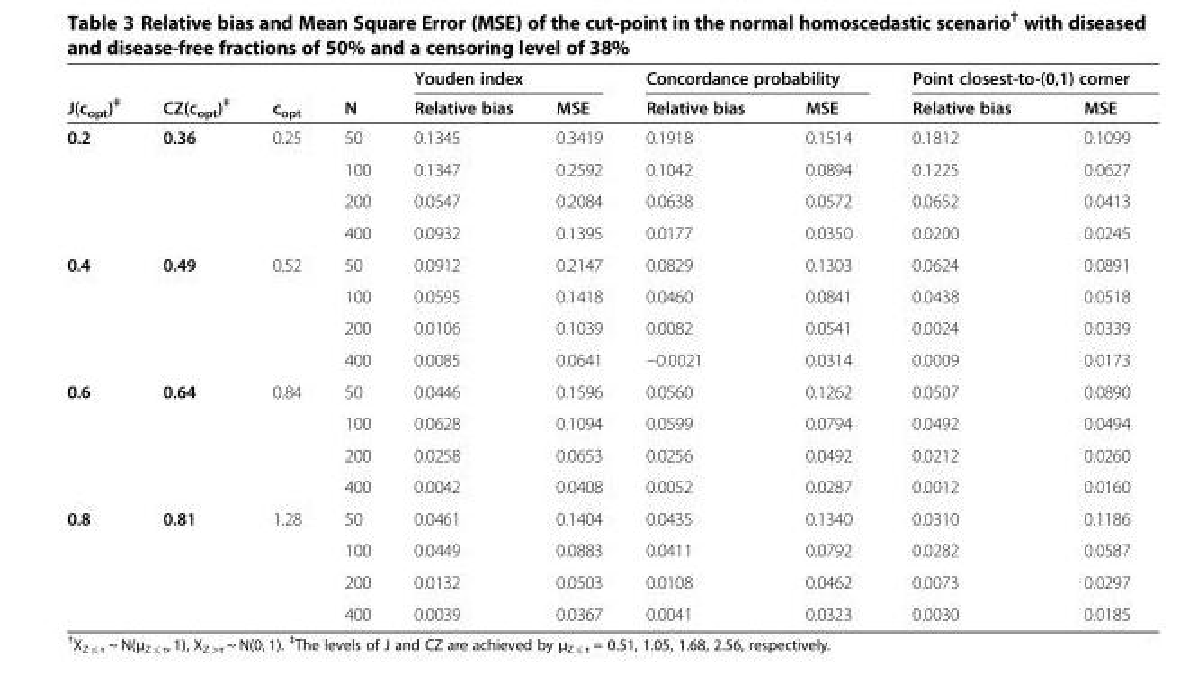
<table><thead><tr><td rowspan="2">J(c<sub>opt</sub>)<sup>‡</sup></td><td rowspan="2">CZ(c<sub>opt</sub>)<sup>‡</sup></td><td rowspan="2">c<sub>opt</sub></td><td rowspan="2">N</td><td colspan="2">Youden index</td><td colspan="2">Concordance probability</td><td colspan="2">Point closest-to-(0,1) corner</td></tr><tr><td>Relative bias</td><td>MSE</td><td>Relative bias</td><td>MSE</td><td>Relative bias</td><td>MSE</td></tr></thead><tbody><tr><td rowspan="4">0.2</td><td>0.36</td><td>0.25</td><td>50</td><td>0.1345</td><td>0.3419</td><td>0.1918</td><td>0.1514</td><td>0.1812</td><td>0.1099</td></tr><tr><td></td><td></td><td>100</td><td>0.1347</td><td>0.2592</td><td>0.1042</td><td>0.0894</td><td>0.1225</td><td>0.0627</td></tr><tr><td></td><td></td><td>200</td><td>0.0547</td><td>0.2084</td><td>0.0638</td><td>0.0572</td><td>0.0652</td><td>0.0413</td></tr><tr><td></td><td></td><td>400</td><td>0.0932</td><td>0.1395</td><td>0.0177</td><td>0.0350</td><td>0.0200</td><td>0.0245</td></tr><tr><td rowspan="4">0.4</td><td>0.49</td><td>0.52</td><td>50</td><td>0.0912</td><td>0.2147</td><td>0.0829</td><td>0.1303</td><td>0.0624</td><td>0.0891</td></tr><tr><td></td><td></td><td>100</td><td>0.0595</td><td>0.1418</td><td>0.0460</td><td>0.0841</td><td>0.0438</td><td>0.0518</td></tr><tr><td></td><td></td><td>200</td><td>0.0106</td><td>0.1039</td><td>0.0082</td><td>0.0541</td><td>0.0024</td><td>0.0339</td></tr><tr><td></td><td></td><td>400</td><td>0.0085</td><td>0.0641</td><td>−0.0021</td><td>0.0314</td><td>0.0009</td><td>0.0173</td></tr><tr><td rowspan="4">0.6</td><td>0.64</td><td>0.84</td><td>50</td><td>0.0446</td><td>0.1596</td><td>0.0560</td><td>0.1262</td><td>0.0507</td><td>0.0890</td></tr><tr><td></td><td></td><td>100</td><td>0.0628</td><td>0.1094</td><td>0.0599</td><td>0.0794</td><td>0.0492</td><td>0.0494</td></tr><tr><td></td><td></td><td>200</td><td>0.0258</td><td>0.0653</td><td>0.0256</td><td>0.0492</td><td>0.0212</td><td>0.0260</td></tr><tr><td></td><td></td><td>400</td><td>0.0042</td><td>0.0408</td><td>0.0052</td><td>0.0287</td><td>0.0012</td><td>0.0160</td></tr><tr><td rowspan="4">0.8</td><td>0.81</td><td>1.28</td><td>50</td><td>0.0461</td><td>0.1404</td><td>0.0435</td><td>0.1340</td><td>0.0310</td><td>0.1186</td></tr><tr><td></td><td></td><td>100</td><td>0.0449</td><td>0.0883</td><td>0.0411</td><td>0.0792</td><td>0.0282</td><td>0.0587</td></tr><tr><td></td><td></td><td>200</td><td>0.0132</td><td>0.0503</td><td>0.0108</td><td>0.0462</td><td>0.0073</td><td>0.0297</td></tr><tr><td></td><td></td><td>400</td><td>0.0039</td><td>0.0367</td><td>0.0041</td><td>0.0323</td><td>0.0030</td><td>0.0185</td></tr></tbody></table>